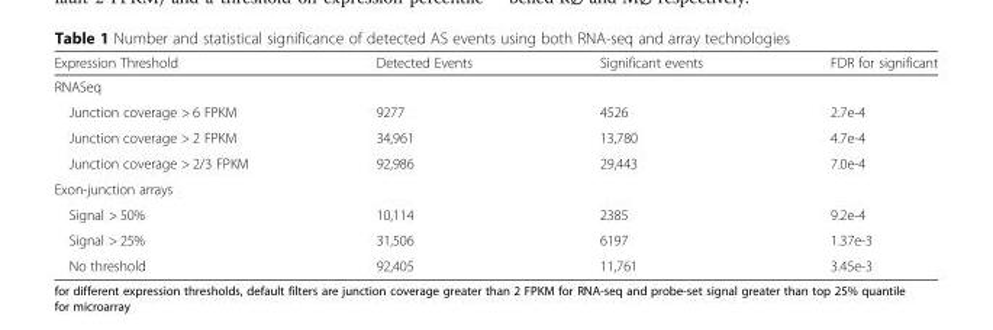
<table><thead><tr><td>Expression Threshold</td><td>Detected Events</td><td>Significant events</td><td>FDR for significant</td></tr></thead><tbody><tr><td colspan="4">RNASeq</td></tr><tr><td>Junction coverage &gt; 6 FPKM</td><td>9277</td><td>4526</td><td>2.7e-4</td></tr><tr><td>Junction coverage &gt; 2 FPKM</td><td>34,961</td><td>13,780</td><td>4.7e-4</td></tr><tr><td>Junction coverage &gt; 2/3 FPKM</td><td>92,986</td><td>29,443</td><td>7.0e-4</td></tr><tr><td colspan="4">Exon-junction arrays</td></tr><tr><td>Signal &gt; 50%</td><td>10,114</td><td>2385</td><td>9.2e-4</td></tr><tr><td>Signal &gt; 25%</td><td>31,506</td><td>6197</td><td>1.37e-3</td></tr><tr><td>No threshold</td><td>92,405</td><td>11,761</td><td>3.45e-3</td></tr></tbody></table>